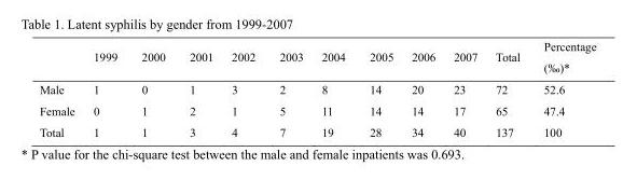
<table><thead><tr><td></td><td>1999</td><td>2000</td><td>2001</td><td>2002</td><td>2003</td><td>2004</td><td>2005</td><td>2006</td><td>2007</td><td>Total</td><td>Percentage (‰)*</td></tr></thead><tbody><tr><td>Male</td><td>1</td><td>0</td><td>1</td><td>3</td><td>2</td><td>8</td><td>14</td><td>20</td><td>23</td><td>72</td><td>52.6</td></tr><tr><td>Female</td><td>0</td><td>1</td><td>2</td><td>1</td><td>5</td><td>11</td><td>14</td><td>14</td><td>17</td><td>65</td><td>47.4</td></tr><tr><td>Total</td><td>1</td><td>1</td><td>3</td><td>4</td><td>7</td><td>19</td><td>28</td><td>34</td><td>40</td><td>137</td><td>100</td></tr></tbody></table>